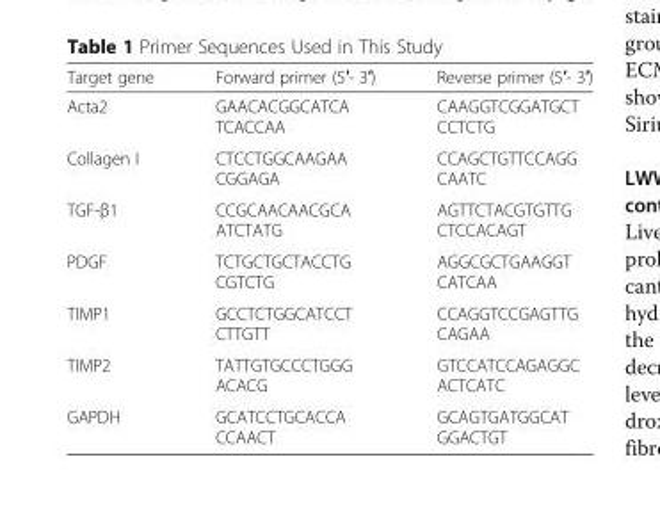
<table><thead><tr><td>Target gene</td><td>Forward primer (5′- 3′)</td><td>Reverse primer (5′- 3′)</td></tr></thead><tbody><tr><td>Acta2</td><td>GAACACGGCATCA TCACCAA</td><td>CAAGGTCGGATGCT CCTCTG</td></tr><tr><td>Collagen I</td><td>CTCCTGGCAAGAA CGGAGA</td><td>CCAGCTGTTCCAGG CAATC</td></tr><tr><td>TGF-β1</td><td>CCGCAACAACGCA ATCTATG</td><td>AGTTCTACGTGTTG CTCCACAGT</td></tr><tr><td>PDGF</td><td>TCTGCTGCTACCTG CGTCTG</td><td>AGGCGCTGAAGGT CATCAA</td></tr><tr><td>TIMP1</td><td>GCCTCTGGCATCCT CTTGTT</td><td>CCAGGTCCGAGTTG CAGAA</td></tr><tr><td>TIMP2</td><td>TATTGTGCCCTGGG ACACG</td><td>GTCCATCCAGAGGC ACTCATC</td></tr><tr><td>GAPDH</td><td>GCATCCTGCACCA CCAACT</td><td>GCAGTGATGGCAT GGACTGT</td></tr></tbody></table>